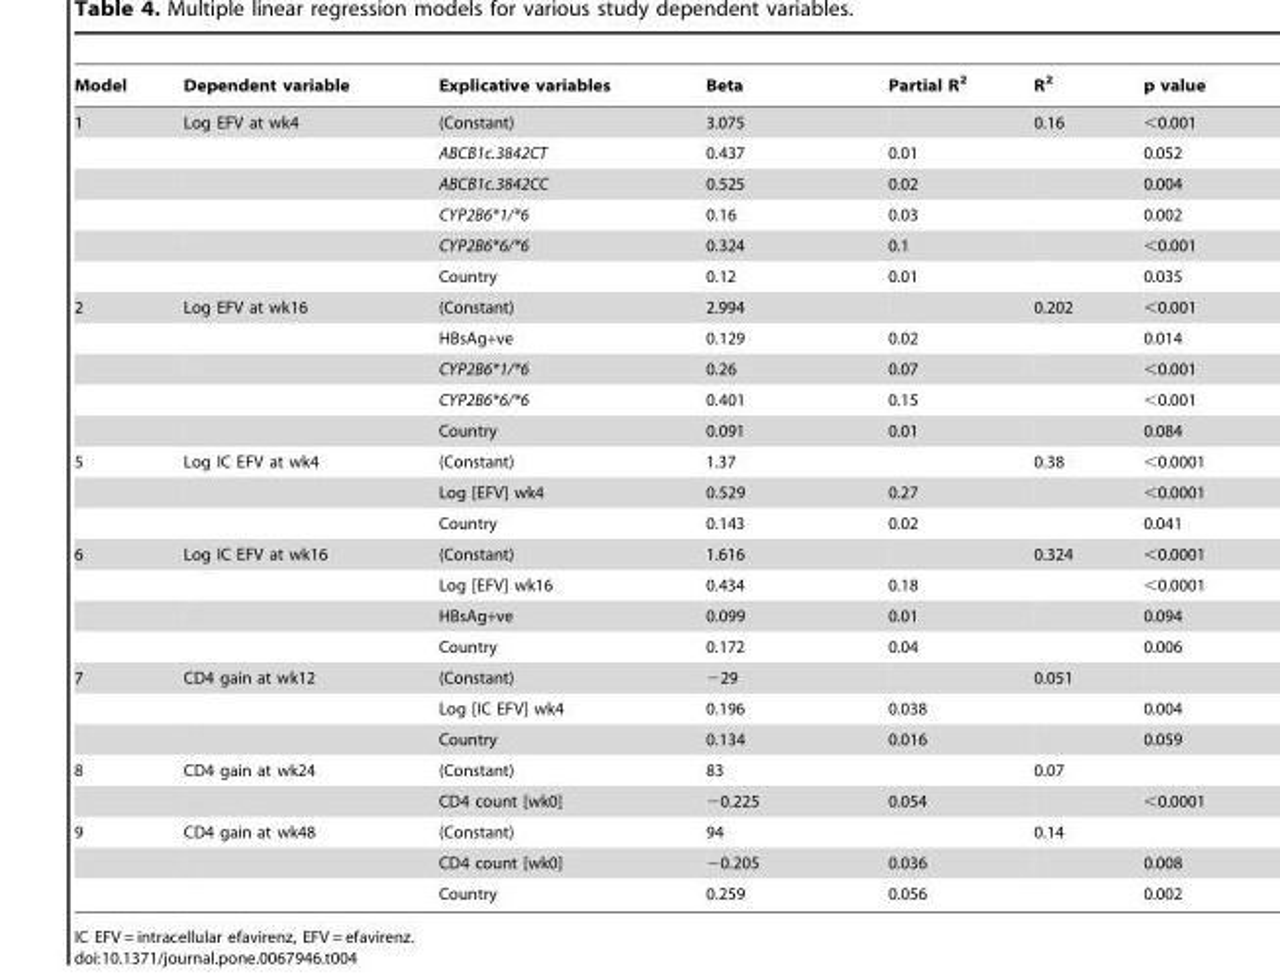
<table><thead><tr><td>Model</td><td>Dependent variable</td><td>Explicative variables</td><td>Beta</td><td>Partial R<sup>2</sup></td><td>R<sup>2</sup></td><td>p value</td></tr></thead><tbody><tr><td rowspan="6">1</td><td>Log EFV at wk4</td><td>(Constant)</td><td>3.075</td><td></td><td>0.16</td><td>&lt;0.001</td></tr><tr><td></td><td>ABCB1c.3842CT</td><td>0.437</td><td>0.01</td><td></td><td>0.052</td></tr><tr><td></td><td>ABCB1c.3842CC</td><td>0.525</td><td>0.02</td><td></td><td>0.004</td></tr><tr><td></td><td>CYP2B6*1/*6</td><td>0.16</td><td>0.03</td><td></td><td>0.002</td></tr><tr><td></td><td>CYP2B6*6/*6</td><td>0.324</td><td>0.1</td><td></td><td>&lt;0.001</td></tr><tr><td></td><td>Country</td><td>0.12</td><td>0.01</td><td></td><td>0.035</td></tr><tr><td rowspan="5">2</td><td>Log EFV at wk16</td><td>(Constant)</td><td>2.994</td><td></td><td>0.202</td><td>&lt;0.001</td></tr><tr><td></td><td>HBsAg+ve</td><td>0.129</td><td>0.02</td><td></td><td>0.014</td></tr><tr><td></td><td>CYP2B6*1/*6</td><td>0.26</td><td>0.07</td><td></td><td>&lt;0.001</td></tr><tr><td></td><td>CYP2B6*6/*6</td><td>0.401</td><td>0.15</td><td></td><td>&lt;0.001</td></tr><tr><td></td><td>Country</td><td>0.091</td><td>0.01</td><td></td><td>0.084</td></tr><tr><td rowspan="3">5</td><td>Log IC EFV at wk4</td><td>(Constant)</td><td>1.37</td><td></td><td>0.38</td><td>&lt;0.0001</td></tr><tr><td></td><td>Log [EFV] wk4</td><td>0.529</td><td>0.27</td><td></td><td>&lt;0.0001</td></tr><tr><td></td><td>Country</td><td>0.143</td><td>0.02</td><td></td><td>0.041</td></tr><tr><td rowspan="4">6</td><td>Log IC EFV at wk16</td><td>(Constant)</td><td>1.616</td><td></td><td>0.324</td><td>&lt;0.0001</td></tr><tr><td></td><td>Log [EFV] wk16</td><td>0.434</td><td>0.18</td><td></td><td>&lt;0.0001</td></tr><tr><td></td><td>HBsAg+ve</td><td>0.099</td><td>0.01</td><td></td><td>0.094</td></tr><tr><td></td><td>Country</td><td>0.172</td><td>0.04</td><td></td><td>0.006</td></tr><tr><td rowspan="3">7</td><td>CD4 gain at wk12</td><td>(Constant)</td><td>−29</td><td></td><td>0.051</td><td></td></tr><tr><td></td><td>Log [IC EFV] wk4</td><td>0.196</td><td>0.038</td><td></td><td>0.004</td></tr><tr><td></td><td>Country</td><td>0.134</td><td>0.016</td><td></td><td>0.059</td></tr><tr><td rowspan="2">8</td><td>CD4 gain at wk24</td><td>(Constant)</td><td>83</td><td></td><td>0.07</td><td></td></tr><tr><td></td><td>CD4 count [wk0]</td><td>−0.225</td><td>0.054</td><td></td><td>&lt;0.0001</td></tr><tr><td rowspan="3">9</td><td>CD4 gain at wk48</td><td>(Constant)</td><td>94</td><td></td><td>0.14</td><td></td></tr><tr><td></td><td>CD4 count [wk0]</td><td>−0.205</td><td>0.036</td><td></td><td>0.008</td></tr><tr><td></td><td>Country</td><td>0.259</td><td>0.056</td><td></td><td>0.002</td></tr></tbody></table>